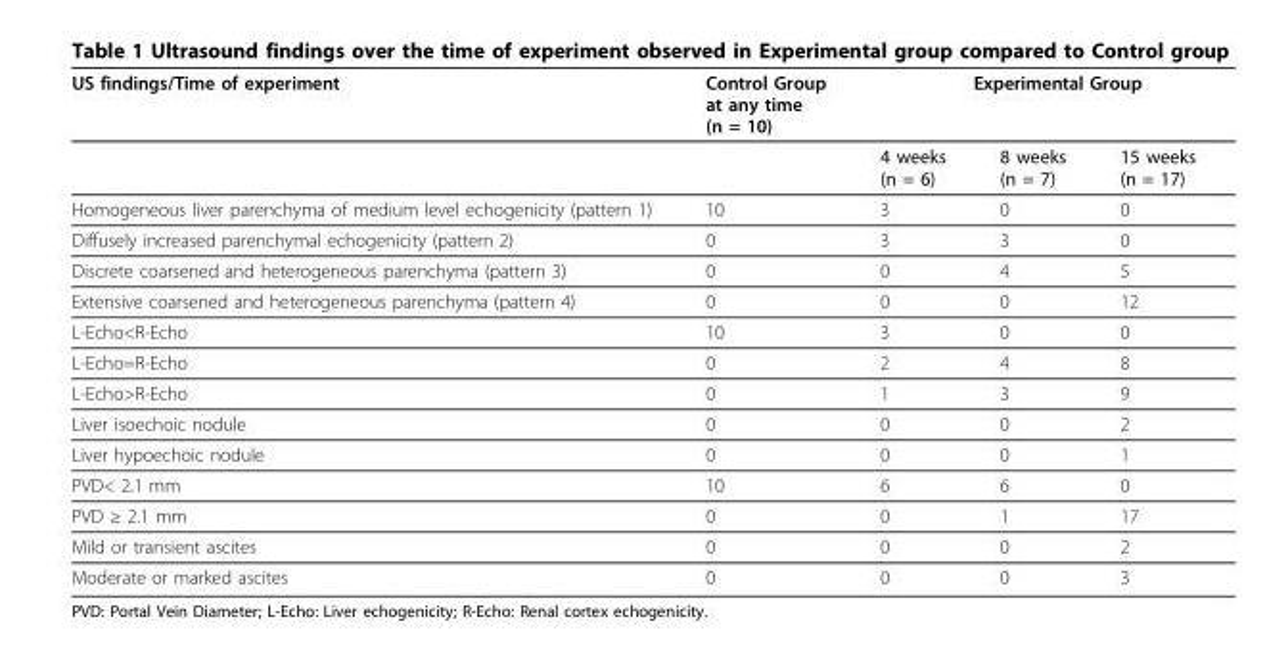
<table><thead><tr><td rowspan="2">US findings/Time of experiment</td><td rowspan="2">Control Group at any time (n = 10)</td><td colspan="3">Experimental Group</td></tr><tr><td>4 weeks (n = 6)</td><td>8 weeks (n = 7)</td><td>15 weeks (n = 17)</td></tr></thead><tbody><tr><td>Homogeneous liver parenchyma of medium level echogenicity (pattern 1)</td><td>10</td><td>3</td><td>0</td><td>0</td></tr><tr><td>Diffusely increased parenchymal echogenicity (pattern 2)</td><td>0</td><td>3</td><td>3</td><td>0</td></tr><tr><td>Discrete coarsened and heterogeneous parenchyma (pattern 3)</td><td>0</td><td>0</td><td>4</td><td>5</td></tr><tr><td>Extensive coarsened and heterogeneous parenchyma (pattern 4)</td><td>0</td><td>0</td><td>0</td><td>12</td></tr><tr><td>L-Echo&lt;R-Echo</td><td>10</td><td>3</td><td>0</td><td>0</td></tr><tr><td>L-Echo=R-Echo</td><td>0</td><td>2</td><td>4</td><td>8</td></tr><tr><td>L-Echo&gt;R-Echo</td><td>0</td><td>1</td><td>3</td><td>9</td></tr><tr><td>Liver isoechoic nodule</td><td>0</td><td>0</td><td>0</td><td>2</td></tr><tr><td>Liver hypoechoic nodule</td><td>0</td><td>0</td><td>0</td><td>1</td></tr><tr><td>PVD&lt; 2.1 mm</td><td>10</td><td>6</td><td>6</td><td>0</td></tr><tr><td>PVD ≥ 2.1 mm</td><td>0</td><td>0</td><td>1</td><td>17</td></tr><tr><td>Mild or transient ascites</td><td>0</td><td>0</td><td>0</td><td>2</td></tr><tr><td>Moderate or marked ascites</td><td>0</td><td>0</td><td>0</td><td>3</td></tr></tbody></table>